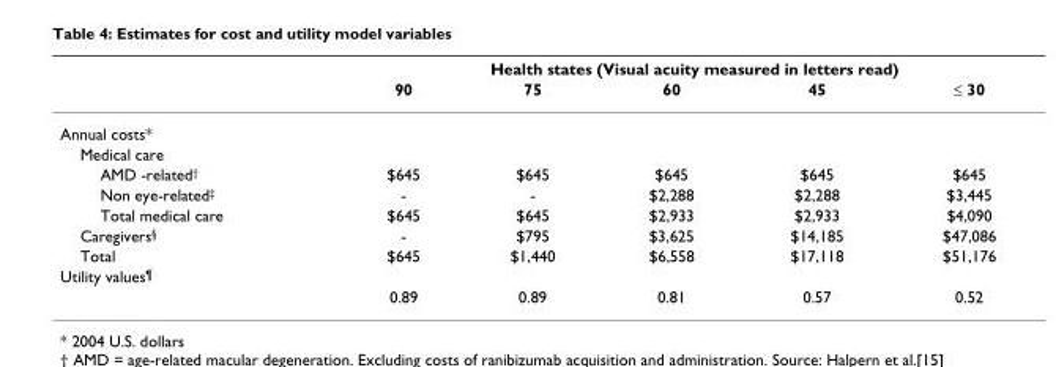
<table><thead><tr><td rowspan="2"></td><td colspan="5">Health states (Visual acuity measured in letters read)</td></tr><tr><td>90</td><td>75</td><td>60</td><td>45</td><td>≤ 30</td></tr></thead><tbody><tr><td colspan="6">Annual costs*</td></tr><tr><td colspan="6">Medical care</td></tr><tr><td>AMD -related<sup>†</sup></td><td>$645</td><td>$645</td><td>$645</td><td>$645</td><td>$645</td></tr><tr><td>Non eye-related<sup>‡</sup></td><td>-</td><td>-</td><td>$2,288</td><td>$2,288</td><td>$3,445</td></tr><tr><td>Total medical care</td><td>$645</td><td>$645</td><td>$2,933</td><td>$2,933</td><td>$4,090</td></tr><tr><td>Caregivers<sup>§</sup></td><td>-</td><td>$795</td><td>$3,625</td><td>$14,185</td><td>$47,086</td></tr><tr><td>Total</td><td>$645</td><td>$1,440</td><td>$6,558</td><td>$17,118</td><td>$51,176</td></tr><tr><td colspan="6">Utility values<sup>¶</sup></td></tr><tr><td></td><td>0.89</td><td>0.89</td><td>0.81</td><td>0.57</td><td>0.52</td></tr></tbody></table>